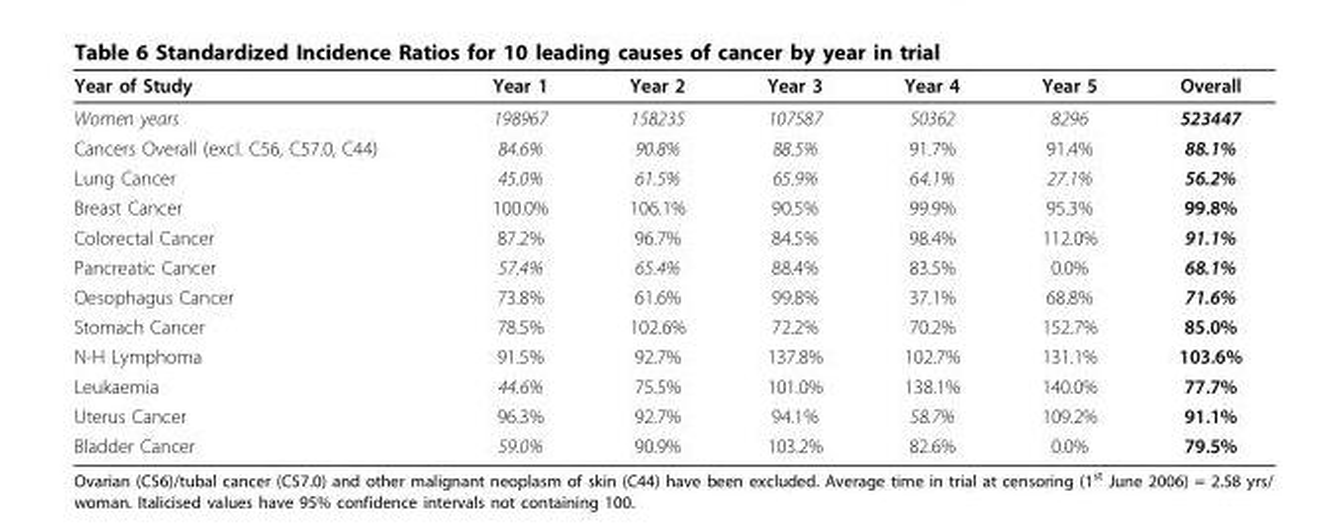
<table><thead><tr><td>Year of Study</td><td>Year 1</td><td>Year 2</td><td>Year 3</td><td>Year 4</td><td>Year 5</td><td>Overall</td></tr></thead><tbody><tr><td>Women years</td><td>198967</td><td>158235</td><td>107587</td><td>50362</td><td>8296</td><td>523447</td></tr><tr><td>Cancers Overall (excl. C56, C57.0, C44)</td><td>84.6%</td><td>90.8%</td><td>88.5%</td><td>91.7%</td><td>91.4%</td><td>88.1%</td></tr><tr><td>Lung Cancer</td><td>45.0%</td><td>61.5%</td><td>65.9%</td><td>64.1%</td><td>27.1%</td><td>56.2%</td></tr><tr><td>Breast Cancer</td><td>100.0%</td><td>106.1%</td><td>90.5%</td><td>99.9%</td><td>95.3%</td><td>99.8%</td></tr><tr><td>Colorectal Cancer</td><td>87.2%</td><td>96.7%</td><td>84.5%</td><td>98.4%</td><td>112.0%</td><td>91.1%</td></tr><tr><td>Pancreatic Cancer</td><td>57.4%</td><td>65.4%</td><td>88.4%</td><td>83.5%</td><td>0.0%</td><td>68.1%</td></tr><tr><td>Oesophagus Cancer</td><td>73.8%</td><td>61.6%</td><td>99.8%</td><td>37.1%</td><td>68.8%</td><td>71.6%</td></tr><tr><td>Stomach Cancer</td><td>78.5%</td><td>102.6%</td><td>72.2%</td><td>70.2%</td><td>152.7%</td><td>85.0%</td></tr><tr><td>N-H Lymphoma</td><td>91.5%</td><td>92.7%</td><td>137.8%</td><td>102.7%</td><td>131.1%</td><td>103.6%</td></tr><tr><td>Leukaemia</td><td>44.6%</td><td>75.5%</td><td>101.0%</td><td>138.1%</td><td>140.0%</td><td>77.7%</td></tr><tr><td>Uterus Cancer</td><td>96.3%</td><td>92.7%</td><td>94.1%</td><td>58.7%</td><td>109.2%</td><td>91.1%</td></tr><tr><td>Bladder Cancer</td><td>59.0%</td><td>90.9%</td><td>103.2%</td><td>82.6%</td><td>0.0%</td><td>79.5%</td></tr></tbody></table>